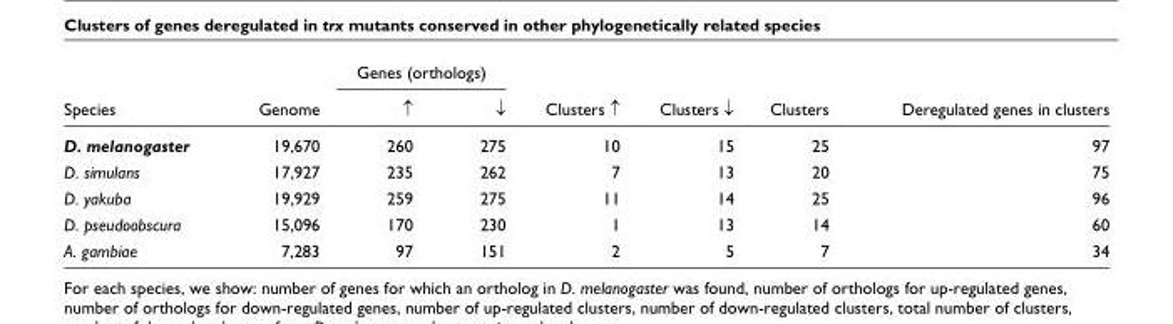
<table><thead><tr><td rowspan="2">Species</td><td rowspan="2">Genome</td><td colspan="2">Genes (orthologs)</td><td rowspan="2">Clusters ↑</td><td rowspan="2">Clusters ↓</td><td rowspan="2">Clusters</td><td rowspan="2">Deregulated genes in clusters</td></tr><tr><td>↑</td><td>↓</td></tr></thead><tbody><tr><td>D. melanogaster</td><td>19,670</td><td>260</td><td>275</td><td>10</td><td>15</td><td>25</td><td>97</td></tr><tr><td>D. simulans</td><td>17,927</td><td>235</td><td>262</td><td>7</td><td>13</td><td>20</td><td>75</td></tr><tr><td>D. yakuba</td><td>19,929</td><td>259</td><td>275</td><td>11</td><td>14</td><td>25</td><td>96</td></tr><tr><td>D. pseudoobscura</td><td>15,096</td><td>170</td><td>230</td><td>1</td><td>13</td><td>14</td><td>60</td></tr><tr><td>A. gambiae</td><td>7,283</td><td>97</td><td>151</td><td>2</td><td>5</td><td>7</td><td>34</td></tr></tbody></table>